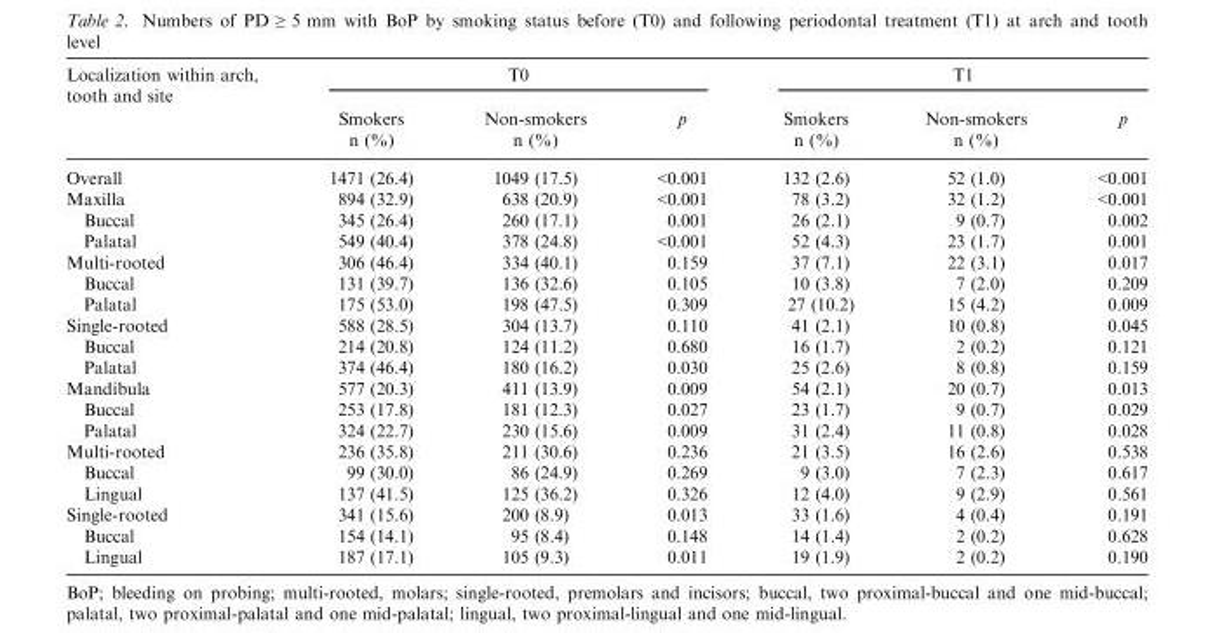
<table><thead><tr><td rowspan="2">Localization within arch, tooth and site</td><td colspan="3">T0</td><td colspan="3">T1</td></tr><tr><td>Smokers n (%)</td><td>Non-smokers n (%)</td><td>p</td><td>Smokers n (%)</td><td>Non-smokers n (%)</td><td>p</td></tr></thead><tbody><tr><td>Overall</td><td>1471 (26.4)</td><td>1049 (17.5)</td><td>&lt;0.001</td><td>132 (2.6)</td><td>52 (1.0)</td><td>&lt;0.001</td></tr><tr><td>Maxilla</td><td>894 (32.9)</td><td>638 (20.9)</td><td>&lt;0.001</td><td>78 (3.2)</td><td>32 (1.2)</td><td>&lt;0.001</td></tr><tr><td>Buccal</td><td>345 (26.4)</td><td>260 (17.1)</td><td>0.001</td><td>26 (2.1)</td><td>9 (0.7)</td><td>0.002</td></tr><tr><td>Palatal</td><td>549 (40.4)</td><td>378 (24.8)</td><td>&lt;0.001</td><td>52 (4.3)</td><td>23 (1.7)</td><td>0.001</td></tr><tr><td>Multi-rooted</td><td>306 (46.4)</td><td>334 (40.1)</td><td>0.159</td><td>37 (7.1)</td><td>22 (3.1)</td><td>0.017</td></tr><tr><td>Buccal</td><td>131 (39.7)</td><td>136 (32.6)</td><td>0.105</td><td>10 (3.8)</td><td>7 (2.0)</td><td>0.209</td></tr><tr><td>Palatal</td><td>175 (53.0)</td><td>198 (47.5)</td><td>0.309</td><td>27 (10.2)</td><td>15 (4.2)</td><td>0.009</td></tr><tr><td>Single-rooted</td><td>588 (28.5)</td><td>304 (13.7)</td><td>0.110</td><td>41 (2.1)</td><td>10 (0.8)</td><td>0.045</td></tr><tr><td>Buccal</td><td>214 (20.8)</td><td>124 (11.2)</td><td>0.680</td><td>16 (1.7)</td><td>2 (0.2)</td><td>0.121</td></tr><tr><td>Palatal</td><td>374 (46.4)</td><td>180 (16.2)</td><td>0.030</td><td>25 (2.6)</td><td>8 (0.8)</td><td>0.159</td></tr><tr><td>Mandibula</td><td>577 (20.3)</td><td>411 (13.9)</td><td>0.009</td><td>54 (2.1)</td><td>20 (0.7)</td><td>0.013</td></tr><tr><td>Buccal</td><td>253 (17.8)</td><td>181 (12.3)</td><td>0.027</td><td>23 (1.7)</td><td>9 (0.7)</td><td>0.029</td></tr><tr><td>Palatal</td><td>324 (22.7)</td><td>230 (15.6)</td><td>0.009</td><td>31 (2.4)</td><td>11 (0.8)</td><td>0.028</td></tr><tr><td>Multi-rooted</td><td>236 (35.8)</td><td>211 (30.6)</td><td>0.236</td><td>21 (3.5)</td><td>16 (2.6)</td><td>0.538</td></tr><tr><td>Buccal</td><td>99 (30.0)</td><td>86 (24.9)</td><td>0.269</td><td>9 (3.0)</td><td>7 (2.3)</td><td>0.617</td></tr><tr><td>Lingual</td><td>137 (41.5)</td><td>125 (36.2)</td><td>0.326</td><td>12 (4.0)</td><td>9 (2.9)</td><td>0.561</td></tr><tr><td>Single-rooted</td><td>341 (15.6)</td><td>200 (8.9)</td><td>0.013</td><td>33 (1.6)</td><td>4 (0.4)</td><td>0.191</td></tr><tr><td>Buccal</td><td>154 (14.1)</td><td>95 (8.4)</td><td>0.148</td><td>14 (1.4)</td><td>2 (0.2)</td><td>0.628</td></tr><tr><td>Lingual</td><td>187 (17.1)</td><td>105 (9.3)</td><td>0.011</td><td>19 (1.9)</td><td>2 (0.2)</td><td>0.190</td></tr></tbody></table>